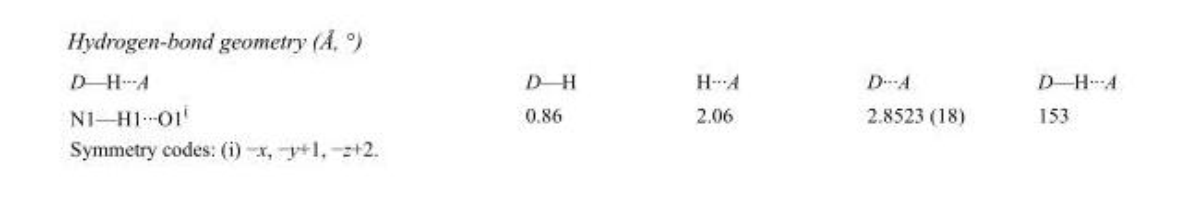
<table><tbody><tr><td>D—H···A</td><td>D—H</td><td>H···A</td><td>D···A</td><td>D—H···A</td></tr><tr><td>N1—H1···O1<sup>i</sup></td><td>0.86</td><td>2.06</td><td>2.8523 (18)</td><td>153</td></tr></tbody></table>